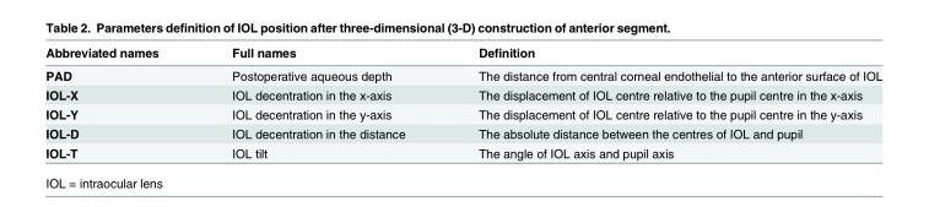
<table><thead><tr><td>Abbreviated names</td><td>Full names</td><td>Definition</td></tr></thead><tbody><tr><td>PAD</td><td>Postoperative aqueous depth</td><td>The distance from central corneal endothelial to the anterior surface of IOL</td></tr><tr><td>IOL-X</td><td>IOL decentration in the x-axis</td><td>The displacement of IOL centre relative to the pupil centre in the x-axis</td></tr><tr><td>IOL-Y</td><td>IOL decentration in the y-axis</td><td>The displacement of IOL centre relative to the pupil centre in the y-axis</td></tr><tr><td>IOL-D</td><td>IOL decentration in the distance</td><td>The absolute distance between the centres of IOL and pupil</td></tr><tr><td>IOL-T</td><td>IOL tilt</td><td>The angle of IOL axis and pupil axis</td></tr></tbody></table>